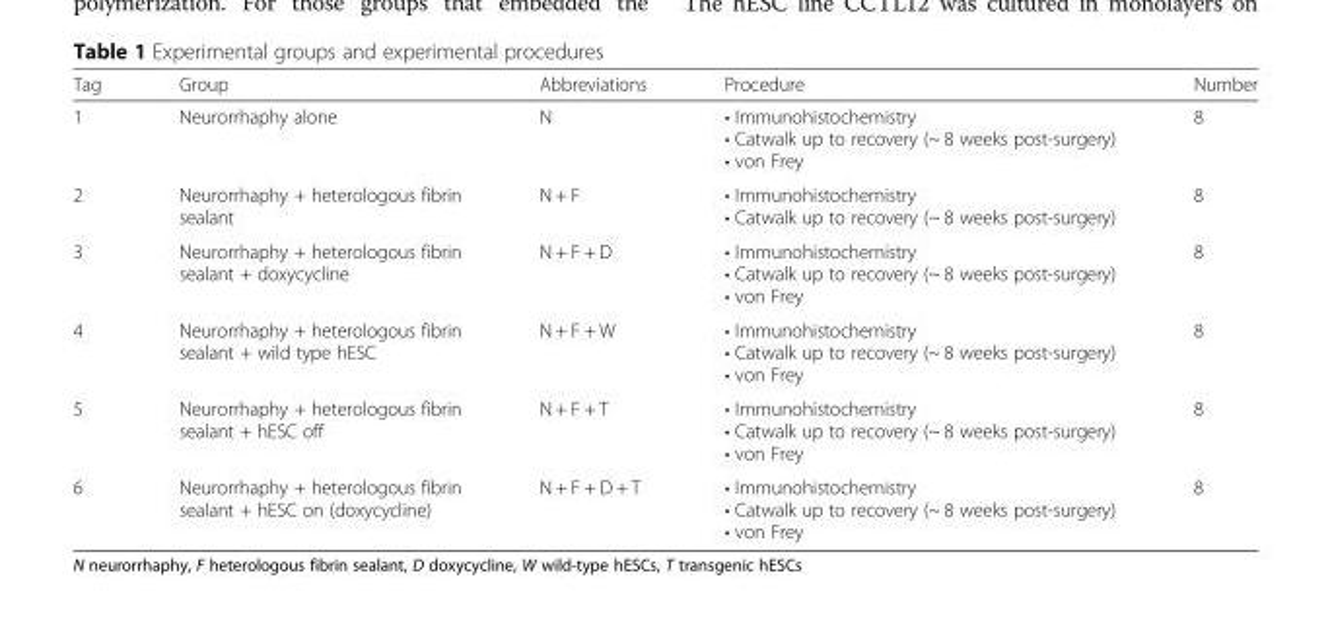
<table><thead><tr><td>Tag</td><td>Group</td><td>Abbreviations</td><td>Procedure</td><td>Number</td></tr></thead><tbody><tr><td>1</td><td>Neurorrhaphy alone</td><td>N</td><td>• Immunohistochemistry • Catwalk up to recovery (~ 8 weeks post-surgery) • von Frey</td><td>8</td></tr><tr><td>2</td><td>Neurorrhaphy + heterologous fibrin sealant</td><td>N + F</td><td>• Immunohistochemistry • Catwalk up to recovery (~ 8 weeks post-surgery)</td><td>8</td></tr><tr><td>3</td><td>Neurorrhaphy + heterologous fibrin sealant + doxycycline</td><td>N + F + D</td><td>• Immunohistochemistry • Catwalk up to recovery (~ 8 weeks post-surgery) • von Frey</td><td>8</td></tr><tr><td>4</td><td>Neurorrhaphy + heterologous fibrin sealant + wild type hESC</td><td>N + F + W</td><td>• Immunohistochemistry • Catwalk up to recovery (~ 8 weeks post-surgery) • von Frey</td><td>8</td></tr><tr><td>5</td><td>Neurorrhaphy + heterologous fibrin sealant + hESC off</td><td>N + F + T</td><td>• Immunohistochemistry • Catwalk up to recovery (~ 8 weeks post-surgery) • von Frey</td><td>8</td></tr><tr><td>6</td><td>Neurorrhaphy + heterologous fibrin sealant + hESC on (doxycycline)</td><td>N + F + D + T</td><td>• Immunohistochemistry • Catwalk up to recovery (~ 8 weeks post-surgery) • von Frey</td><td>8</td></tr></tbody></table>